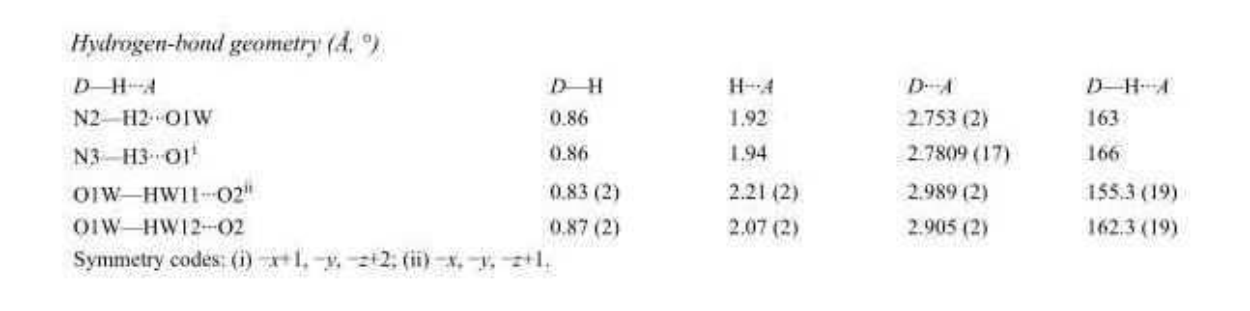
<table><tbody><tr><td>D—H···A</td><td>D—H</td><td>H···A</td><td>D···A</td><td>D—H···A</td></tr><tr><td>N2—H2···O1W</td><td>0.86</td><td>1.92</td><td>2.753 (2)</td><td>163</td></tr><tr><td>N3—H3···O1<sup>i</sup></td><td>0.86</td><td>1.94</td><td>2.7809 (17)</td><td>166</td></tr><tr><td>O1W—HW11···O2<sup>ii</sup></td><td>0.83 (2)</td><td>2.21 (2)</td><td>2.989 (2)</td><td>155.3 (19)</td></tr><tr><td>O1W—HW12···O2</td><td>0.87 (2)</td><td>2.07 (2)</td><td>2.905 (2)</td><td>162.3 (19)</td></tr></tbody></table>